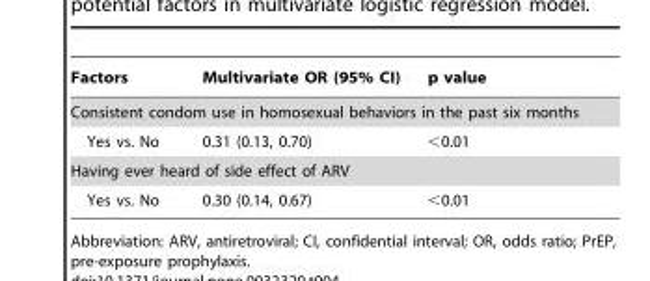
<table><thead><tr><td>Factors</td><td>Multivariate OR (95% CI)</td><td>p value</td></tr></thead><tbody><tr><td colspan="3">Consistent condom use in homosexual behaviors in the past six months</td></tr><tr><td>Yes vs. No</td><td>0.31 (0.13, 0.70)</td><td>&lt;0.01</td></tr><tr><td colspan="3">Having ever heard of side effect of ARV</td></tr><tr><td>Yes vs. No</td><td>0.30 (0.14, 0.67)</td><td>&lt;0.01</td></tr></tbody></table>